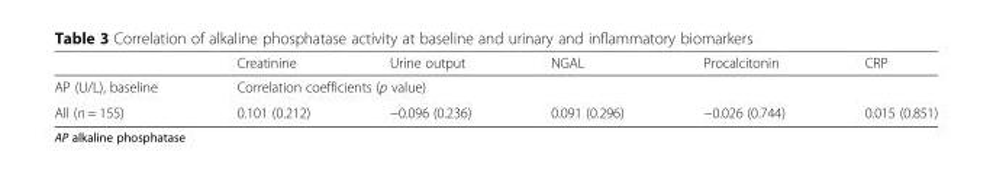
<table><thead><tr><td></td><td>Creatinine</td><td>Urine output</td><td>NGAL</td><td>Procalcitonin</td><td>CRP</td></tr></thead><tbody><tr><td>AP (U/L), baseline</td><td colspan="5">Correlation coefficients (p value)</td></tr><tr><td>All (n = 155)</td><td>0.101 (0.212)</td><td>−0.096 (0.236)</td><td>0.091 (0.296)</td><td>−0.026 (0.744)</td><td>0.015 (0.851)</td></tr></tbody></table>